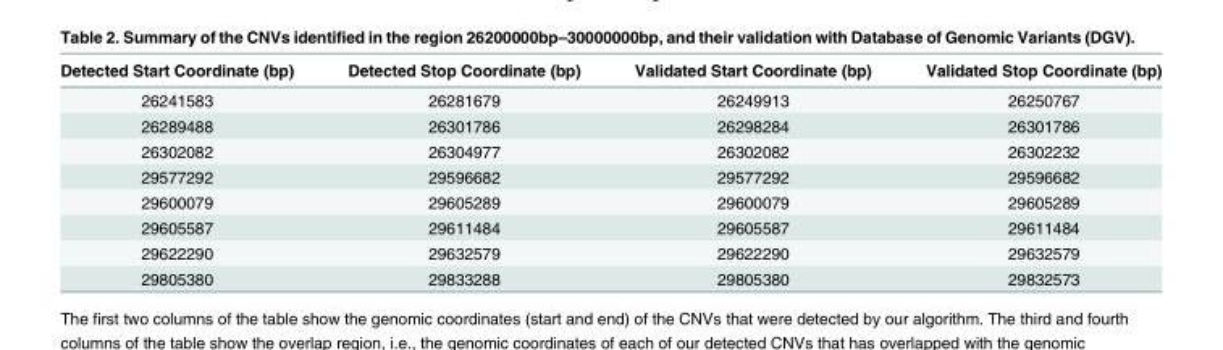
<table><thead><tr><td>Detected Start Coordinate (bp)</td><td>Detected Stop Coordinate (bp)</td><td>Validated Start Coordinate (bp)</td><td>Validated Stop Coordinate (bp)</td></tr></thead><tbody><tr><td>26241583</td><td>26281679</td><td>26249913</td><td>26250767</td></tr><tr><td>26289488</td><td>26301786</td><td>26298284</td><td>26301786</td></tr><tr><td>26302082</td><td>26304977</td><td>26302082</td><td>26302232</td></tr><tr><td>29577292</td><td>29596682</td><td>29577292</td><td>29596682</td></tr><tr><td>29600079</td><td>29605289</td><td>29600079</td><td>29605289</td></tr><tr><td>29605587</td><td>29611484</td><td>29605587</td><td>29611484</td></tr><tr><td>29622290</td><td>29632579</td><td>29622290</td><td>29632579</td></tr><tr><td>29805380</td><td>29833288</td><td>29805380</td><td>29832573</td></tr></tbody></table>